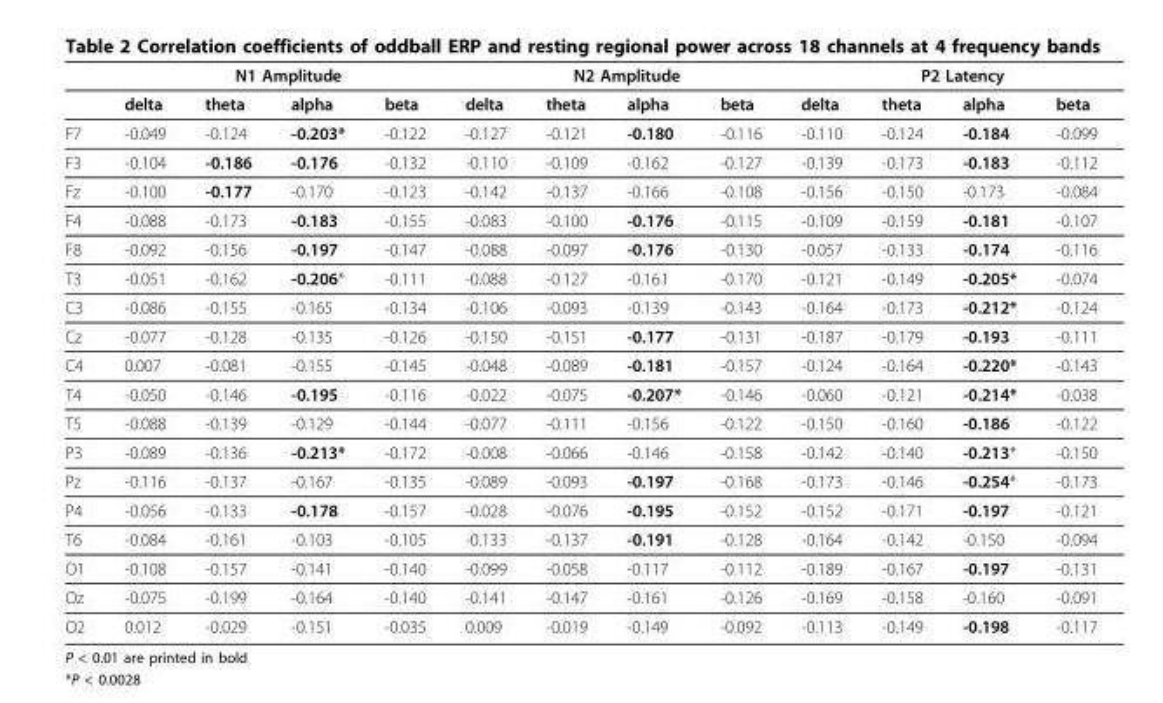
<table><thead><tr><td rowspan="2"></td><td colspan="4">N1 Amplitude</td><td colspan="4">N2 Amplitude</td><td colspan="4">P2 Latency</td></tr><tr><td>delta</td><td>theta</td><td>alpha</td><td>beta</td><td>delta</td><td>theta</td><td>alpha</td><td>beta</td><td>delta</td><td>theta</td><td>alpha</td><td>beta</td></tr></thead><tbody><tr><td>F7</td><td>-0.049</td><td>-0.124</td><td>-0.203*</td><td>-0.122</td><td>-0.127</td><td>-0.121</td><td>-0.180</td><td>-0.116</td><td>-0.110</td><td>-0.124</td><td>-0.184</td><td>-0.099</td></tr><tr><td>F3</td><td>-0.104</td><td>-0.186</td><td>-0.176</td><td>-0.132</td><td>-0.110</td><td>-0.109</td><td>-0.162</td><td>-0.127</td><td>-0.139</td><td>-0.173</td><td>-0.183</td><td>-0.112</td></tr><tr><td>Fz</td><td>-0.100</td><td>-0.177</td><td>-0.170</td><td>-0.123</td><td>-0.142</td><td>-0.137</td><td>-0.166</td><td>-0.108</td><td>-0.156</td><td>-0.150</td><td>-0.173</td><td>-0.084</td></tr><tr><td>F4</td><td>-0.088</td><td>-0.173</td><td>-0.183</td><td>-0.155</td><td>-0.083</td><td>-0.100</td><td>-0.176</td><td>-0.115</td><td>-0.109</td><td>-0.159</td><td>-0.181</td><td>-0.107</td></tr><tr><td>F8</td><td>-0.092</td><td>-0.156</td><td>-0.197</td><td>-0.147</td><td>-0.088</td><td>-0.097</td><td>-0.176</td><td>-0.130</td><td>-0.057</td><td>-0.133</td><td>-0.174</td><td>-0.116</td></tr><tr><td>T3</td><td>-0.051</td><td>-0.162</td><td>-0.206*</td><td>-0.111</td><td>-0.088</td><td>-0.127</td><td>-0.161</td><td>-0.170</td><td>-0.121</td><td>-0.149</td><td>-0.205*</td><td>-0.074</td></tr><tr><td>C3</td><td>-0.086</td><td>-0.155</td><td>-0.165</td><td>-0.134</td><td>-0.106</td><td>-0.093</td><td>-0.139</td><td>-0.143</td><td>-0.164</td><td>-0.173</td><td>-0.212*</td><td>-0.124</td></tr><tr><td>Cz</td><td>-0.077</td><td>-0.128</td><td>-0.135</td><td>-0.126</td><td>-0.150</td><td>-0.151</td><td>-0.177</td><td>-0.131</td><td>-0.187</td><td>-0.179</td><td>-0.193</td><td>-0.111</td></tr><tr><td>C4</td><td>0.007</td><td>-0.081</td><td>-0.155</td><td>-0.145</td><td>-0.048</td><td>-0.089</td><td>-0.181</td><td>-0.157</td><td>-0.124</td><td>-0.164</td><td>-0.220*</td><td>-0.143</td></tr><tr><td>T4</td><td>-0.050</td><td>-0.146</td><td>-0.195</td><td>-0.116</td><td>-0.022</td><td>-0.075</td><td>-0.207*</td><td>-0.146</td><td>-0.060</td><td>-0.121</td><td>-0.214*</td><td>-0.038</td></tr><tr><td>T5</td><td>-0.088</td><td>-0.139</td><td>-0.129</td><td>-0.144</td><td>-0.077</td><td>-0.111</td><td>-0.156</td><td>-0.122</td><td>-0.150</td><td>-0.160</td><td>-0.186</td><td>-0.122</td></tr><tr><td>P3</td><td>-0.089</td><td>-0.136</td><td>-0.213*</td><td>-0.172</td><td>-0.008</td><td>-0.066</td><td>-0.146</td><td>-0.158</td><td>-0.142</td><td>-0.140</td><td>-0.213*</td><td>-0.150</td></tr><tr><td>Pz</td><td>-0.116</td><td>-0.137</td><td>-0.167</td><td>-0.135</td><td>-0.089</td><td>-0.093</td><td>-0.197</td><td>-0.168</td><td>-0.173</td><td>-0.146</td><td>-0.254*</td><td>-0.173</td></tr><tr><td>P4</td><td>-0.056</td><td>-0.133</td><td>-0.178</td><td>-0.157</td><td>-0.028</td><td>-0.076</td><td>-0.195</td><td>-0.152</td><td>-0.152</td><td>-0.171</td><td>-0.197</td><td>-0.121</td></tr><tr><td>T6</td><td>-0.084</td><td>-0.161</td><td>-0.103</td><td>-0.105</td><td>-0.133</td><td>-0.137</td><td>-0.191</td><td>-0.128</td><td>-0.164</td><td>-0.142</td><td>-0.150</td><td>-0.094</td></tr><tr><td>O1</td><td>-0.108</td><td>-0.157</td><td>-0.141</td><td>-0.140</td><td>-0.099</td><td>-0.058</td><td>-0.117</td><td>-0.112</td><td>-0.189</td><td>-0.167</td><td>-0.197</td><td>-0.131</td></tr><tr><td>Oz</td><td>-0.075</td><td>-0.199</td><td>-0.164</td><td>-0.140</td><td>-0.141</td><td>-0.147</td><td>-0.161</td><td>-0.126</td><td>-0.169</td><td>-0.158</td><td>-0.160</td><td>-0.091</td></tr><tr><td>O2</td><td>0.012</td><td>-0.029</td><td>-0.151</td><td>-0.035</td><td>0.009</td><td>-0.019</td><td>-0.149</td><td>-0.092</td><td>-0.113</td><td>-0.149</td><td>-0.198</td><td>-0.117</td></tr></tbody></table>